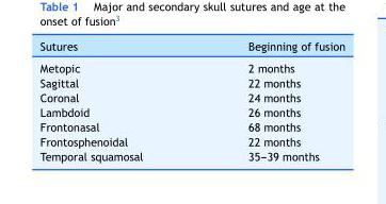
<table><thead><tr><td>Sutures</td><td>Beginning of fusion</td></tr></thead><tbody><tr><td>Metopic</td><td>2 months</td></tr><tr><td>Sagittal</td><td>22 months</td></tr><tr><td>Coronal</td><td>24 months</td></tr><tr><td>Lambdoid</td><td>26 months</td></tr><tr><td>Frontonasal</td><td>68 months</td></tr><tr><td>Frontosphenoidal</td><td>22 months</td></tr><tr><td>Temporal squamosal</td><td>35---39 months</td></tr></tbody></table>